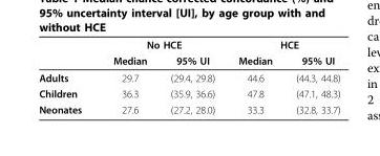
<table><thead><tr><td rowspan="2"></td><td colspan="2">No HCE</td><td colspan="2">HCE</td></tr><tr><td>Median</td><td>95% UI</td><td>Median</td><td>95% UI</td></tr></thead><tbody><tr><td>Adults</td><td>29.7</td><td>(29.4, 29.8)</td><td>44.6</td><td>(44.3, 44.8)</td></tr><tr><td>Children</td><td>36.3</td><td>(35.9, 36.6)</td><td>47.8</td><td>(47.1, 48.3)</td></tr><tr><td>Neonates</td><td>27.6</td><td>(27.2, 28.0)</td><td>33.3</td><td>(32.8, 33.7)</td></tr></tbody></table>